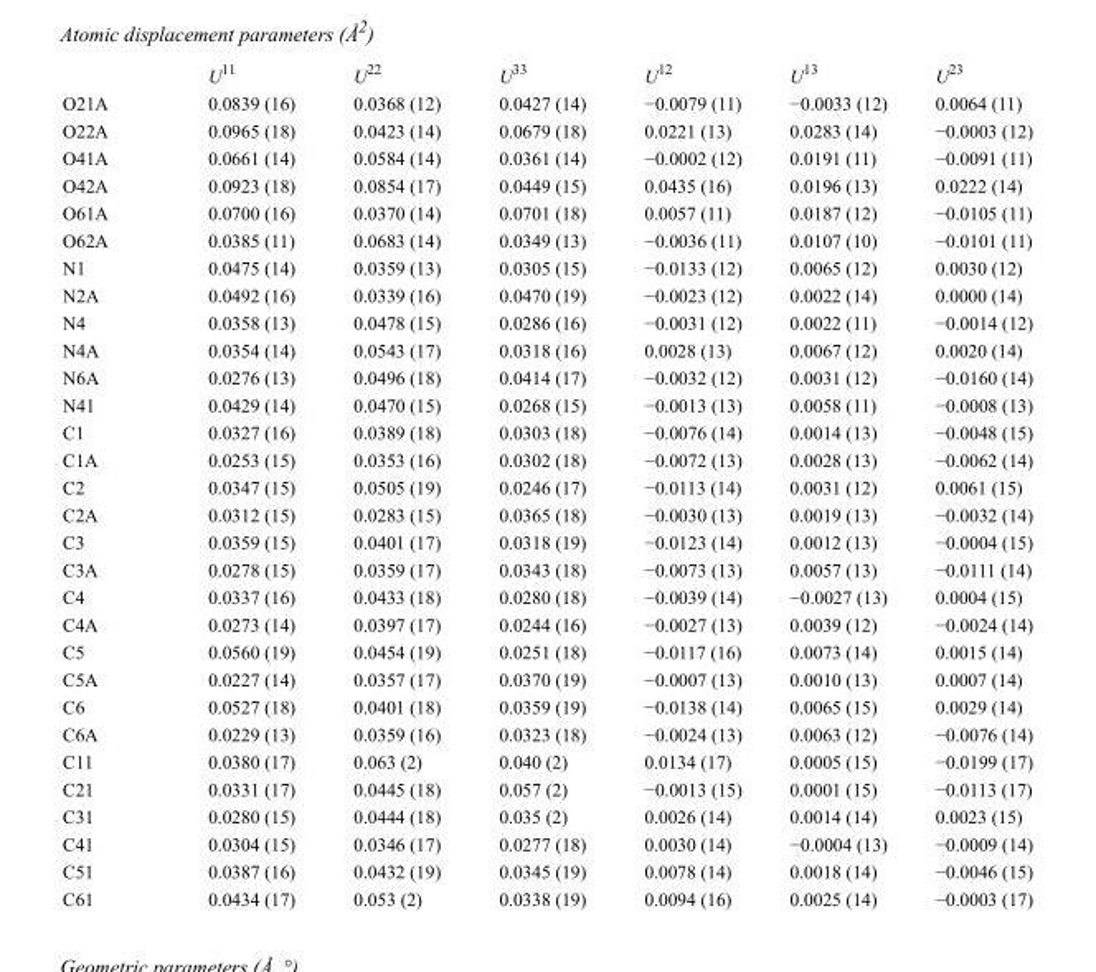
<table><thead><tr><td></td><td>U<sup>11</sup></td><td>U<sup>22</sup></td><td>U<sup>33</sup></td><td>U<sup>12</sup></td><td>U<sup>13</sup></td><td>U<sup>23</sup></td></tr></thead><tbody><tr><td>O21A</td><td>0.0839 (16)</td><td>0.0368 (12)</td><td>0.0427 (14)</td><td>−0.0079 (11)</td><td>−0.0033 (12)</td><td>0.0064 (11)</td></tr><tr><td>O22A</td><td>0.0965 (18)</td><td>0.0423 (14)</td><td>0.0679 (18)</td><td>0.0221 (13)</td><td>0.0283 (14)</td><td>−0.0003 (12)</td></tr><tr><td>O41A</td><td>0.0661 (14)</td><td>0.0584 (14)</td><td>0.0361 (14)</td><td>−0.0002 (12)</td><td>0.0191 (11)</td><td>−0.0091 (11)</td></tr><tr><td>O42A</td><td>0.0923 (18)</td><td>0.0854 (17)</td><td>0.0449 (15)</td><td>0.0435 (16)</td><td>0.0196 (13)</td><td>0.0222 (14)</td></tr><tr><td>O61A</td><td>0.0700 (16)</td><td>0.0370 (14)</td><td>0.0701 (18)</td><td>0.0057 (11)</td><td>0.0187 (12)</td><td>−0.0105 (11)</td></tr><tr><td>O62A</td><td>0.0385 (11)</td><td>0.0683 (14)</td><td>0.0349 (13)</td><td>−0.0036 (11)</td><td>0.0107 (10)</td><td>−0.0101 (11)</td></tr><tr><td>N1</td><td>0.0475 (14)</td><td>0.0359 (13)</td><td>0.0305 (15)</td><td>−0.0133 (12)</td><td>0.0065 (12)</td><td>0.0030 (12)</td></tr><tr><td>N2A</td><td>0.0492 (16)</td><td>0.0339 (16)</td><td>0.0470 (19)</td><td>−0.0023 (12)</td><td>0.0022 (14)</td><td>0.0000 (14)</td></tr><tr><td>N4</td><td>0.0358 (13)</td><td>0.0478 (15)</td><td>0.0286 (16)</td><td>−0.0031 (12)</td><td>0.0022 (11)</td><td>−0.0014 (12)</td></tr><tr><td>N4A</td><td>0.0354 (14)</td><td>0.0543 (17)</td><td>0.0318 (16)</td><td>0.0028 (13)</td><td>0.0067 (12)</td><td>0.0020 (14)</td></tr><tr><td>N6A</td><td>0.0276 (13)</td><td>0.0496 (18)</td><td>0.0414 (17)</td><td>−0.0032 (12)</td><td>0.0031 (12)</td><td>−0.0160 (14)</td></tr><tr><td>N41</td><td>0.0429 (14)</td><td>0.0470 (15)</td><td>0.0268 (15)</td><td>−0.0013 (13)</td><td>0.0058 (11)</td><td>−0.0008 (13)</td></tr><tr><td>C1</td><td>0.0327 (16)</td><td>0.0389 (18)</td><td>0.0303 (18)</td><td>−0.0076 (14)</td><td>0.0014 (13)</td><td>−0.0048 (15)</td></tr><tr><td>C1A</td><td>0.0253 (15)</td><td>0.0353 (16)</td><td>0.0302 (18)</td><td>−0.0072 (13)</td><td>0.0028 (13)</td><td>−0.0062 (14)</td></tr><tr><td>C2</td><td>0.0347 (15)</td><td>0.0505 (19)</td><td>0.0246 (17)</td><td>−0.0113 (14)</td><td>0.0031 (12)</td><td>0.0061 (15)</td></tr><tr><td>C2A</td><td>0.0312 (15)</td><td>0.0283 (15)</td><td>0.0365 (18)</td><td>−0.0030 (13)</td><td>0.0019 (13)</td><td>−0.0032 (14)</td></tr><tr><td>C3</td><td>0.0359 (15)</td><td>0.0401 (17)</td><td>0.0318 (19)</td><td>−0.0123 (14)</td><td>0.0012 (13)</td><td>−0.0004 (15)</td></tr><tr><td>C3A</td><td>0.0278 (15)</td><td>0.0359 (17)</td><td>0.0343 (18)</td><td>−0.0073 (13)</td><td>0.0057 (13)</td><td>−0.0111 (14)</td></tr><tr><td>C4</td><td>0.0337 (16)</td><td>0.0433 (18)</td><td>0.0280 (18)</td><td>−0.0039 (14)</td><td>−0.0027 (13)</td><td>0.0004 (15)</td></tr><tr><td>C4A</td><td>0.0273 (14)</td><td>0.0397 (17)</td><td>0.0244 (16)</td><td>−0.0027 (13)</td><td>0.0039 (12)</td><td>−0.0024 (14)</td></tr><tr><td>C5</td><td>0.0560 (19)</td><td>0.0454 (19)</td><td>0.0251 (18)</td><td>−0.0117 (16)</td><td>0.0073 (14)</td><td>0.0015 (14)</td></tr><tr><td>C5A</td><td>0.0227 (14)</td><td>0.0357 (17)</td><td>0.0370 (19)</td><td>−0.0007 (13)</td><td>0.0010 (13)</td><td>0.0007 (14)</td></tr><tr><td>C6</td><td>0.0527 (18)</td><td>0.0401 (18)</td><td>0.0359 (19)</td><td>−0.0138 (14)</td><td>0.0065 (15)</td><td>0.0029 (14)</td></tr><tr><td>C6A</td><td>0.0229 (13)</td><td>0.0359 (16)</td><td>0.0323 (18)</td><td>−0.0024 (13)</td><td>0.0063 (12)</td><td>−0.0076 (14)</td></tr><tr><td>C11</td><td>0.0380 (17)</td><td>0.063 (2)</td><td>0.040 (2)</td><td>0.0134 (17)</td><td>0.0005 (15)</td><td>−0.0199 (17)</td></tr><tr><td>C21</td><td>0.0331 (17)</td><td>0.0445 (18)</td><td>0.057 (2)</td><td>−0.0013 (15)</td><td>0.0001 (15)</td><td>−0.0113 (17)</td></tr><tr><td>C31</td><td>0.0280 (15)</td><td>0.0444 (18)</td><td>0.035 (2)</td><td>0.0026 (14)</td><td>0.0014 (14)</td><td>0.0023 (15)</td></tr><tr><td>C41</td><td>0.0304 (15)</td><td>0.0346 (17)</td><td>0.0277 (18)</td><td>0.0030 (14)</td><td>−0.0004 (13)</td><td>−0.0009 (14)</td></tr><tr><td>C51</td><td>0.0387 (16)</td><td>0.0432 (19)</td><td>0.0345 (19)</td><td>0.0078 (14)</td><td>0.0018 (14)</td><td>−0.0046 (15)</td></tr><tr><td>C61</td><td>0.0434 (17)</td><td>0.053 (2)</td><td>0.0338 (19)</td><td>0.0094 (16)</td><td>0.0025 (14)</td><td>−0.0003 (17)</td></tr></tbody></table>